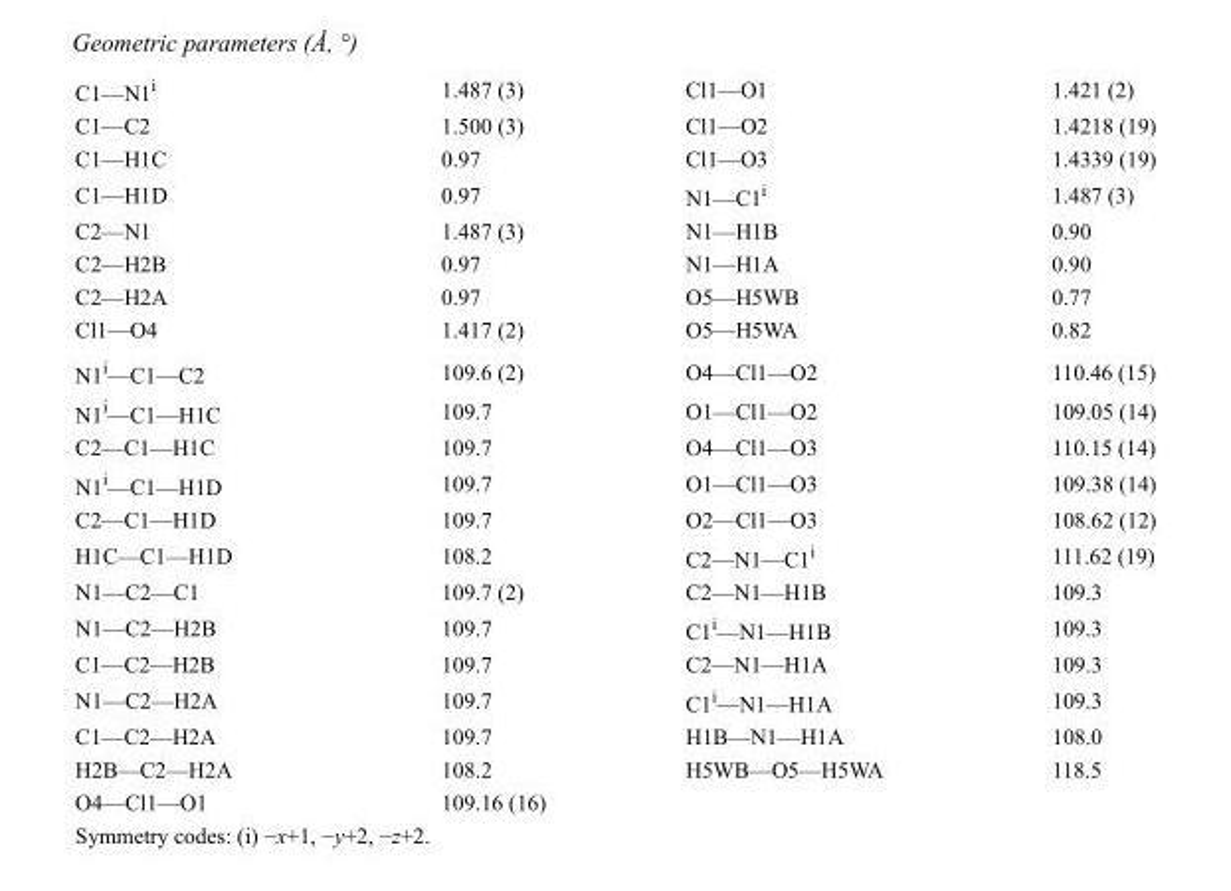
<table><tbody><tr><td>C1—N1<sup>i</sup></td><td>1.487 (3)</td><td>Cl1—O1</td><td>1.421 (2)</td></tr><tr><td>C1—C2</td><td>1.500 (3)</td><td>Cl1—O2</td><td>1.4218 (19)</td></tr><tr><td>C1—H1C</td><td>0.97</td><td>Cl1—O3</td><td>1.4339 (19)</td></tr><tr><td>C1—H1D</td><td>0.97</td><td>N1—C1<sup>i</sup></td><td>1.487 (3)</td></tr><tr><td>C2—N1</td><td>1.487 (3)</td><td>N1—H1B</td><td>0.90</td></tr><tr><td>C2—H2B</td><td>0.97</td><td>N1—H1A</td><td>0.90</td></tr><tr><td>C2—H2A</td><td>0.97</td><td>O5—H5WB</td><td>0.77</td></tr><tr><td>Cl1—O4</td><td>1.417 (2)</td><td>O5—H5WA</td><td>0.82</td></tr><tr><td>N1<sup>i</sup>—C1—C2</td><td>109.6 (2)</td><td>O4—Cl1—O2</td><td>110.46 (15)</td></tr><tr><td>N1<sup>i</sup>—C1—H1C</td><td>109.7</td><td>O1—Cl1—O2</td><td>109.05 (14)</td></tr><tr><td>C2—C1—H1C</td><td>109.7</td><td>O4—Cl1—O3</td><td>110.15 (14)</td></tr><tr><td>N1<sup>i</sup>—C1—H1D</td><td>109.7</td><td>O1—Cl1—O3</td><td>109.38 (14)</td></tr><tr><td>C2—C1—H1D</td><td>109.7</td><td>O2—Cl1—O3</td><td>108.62 (12)</td></tr><tr><td>H1C—C1—H1D</td><td>108.2</td><td>C2—N1—C1<sup>i</sup></td><td>111.62 (19)</td></tr><tr><td>N1—C2—C1</td><td>109.7 (2)</td><td>C2—N1—H1B</td><td>109.3</td></tr><tr><td>N1—C2—H2B</td><td>109.7</td><td>C1<sup>i</sup>—N1—H1B</td><td>109.3</td></tr><tr><td>C1—C2—H2B</td><td>109.7</td><td>C2—N1—H1A</td><td>109.3</td></tr><tr><td>N1—C2—H2A</td><td>109.7</td><td>C1<sup>i</sup>—N1—H1A</td><td>109.3</td></tr><tr><td>C1—C2—H2A</td><td>109.7</td><td>H1B—N1—H1A</td><td>108.0</td></tr><tr><td>H2B—C2—H2A</td><td>108.2</td><td>H5WB—O5—H5WA</td><td>118.5</td></tr><tr><td>O4—Cl1—O1</td><td>109.16 (16)</td><td></td><td></td></tr></tbody></table>